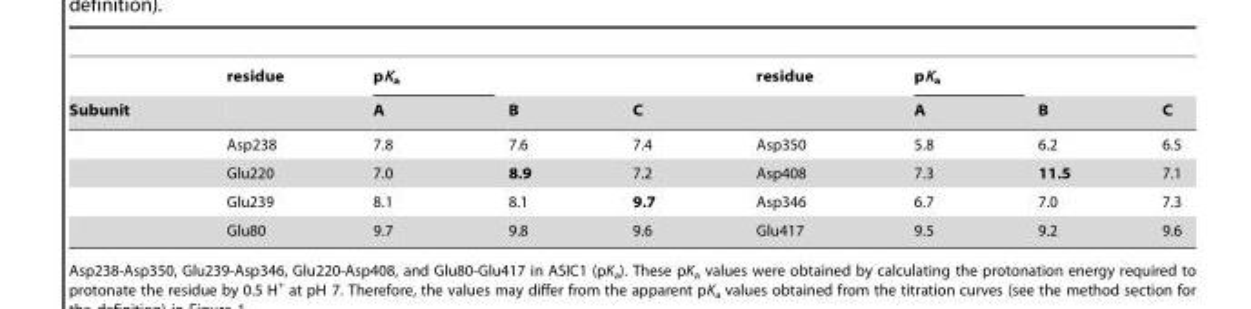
<table><thead><tr><td rowspan="2">Subunit</td><td rowspan="2">residue</td><td rowspan="2">pK<sub>a</sub> A</td><td rowspan="2">B</td><td rowspan="2">C</td><td rowspan="2">residue</td><td rowspan="2">pK<sub>a</sub> A</td><td rowspan="2">B</td><td rowspan="2">C</td></tr><tr></tr></thead><tbody><tr><td></td><td>Asp238</td><td>7.8</td><td>7.6</td><td>7.4</td><td>Asp350</td><td>5.8</td><td>6.2</td><td>6.5</td></tr><tr><td></td><td>Glu220</td><td>7.0</td><td>8.9</td><td>7.2</td><td>Asp408</td><td>7.3</td><td>11.5</td><td>7.1</td></tr><tr><td></td><td>Glu239</td><td>8.1</td><td>8.1</td><td>9.7</td><td>Asp346</td><td>6.7</td><td>7.0</td><td>7.3</td></tr><tr><td></td><td>Glu80</td><td>9.7</td><td>9.8</td><td>9.6</td><td>Glu417</td><td>9.5</td><td>9.2</td><td>9.6</td></tr></tbody></table>